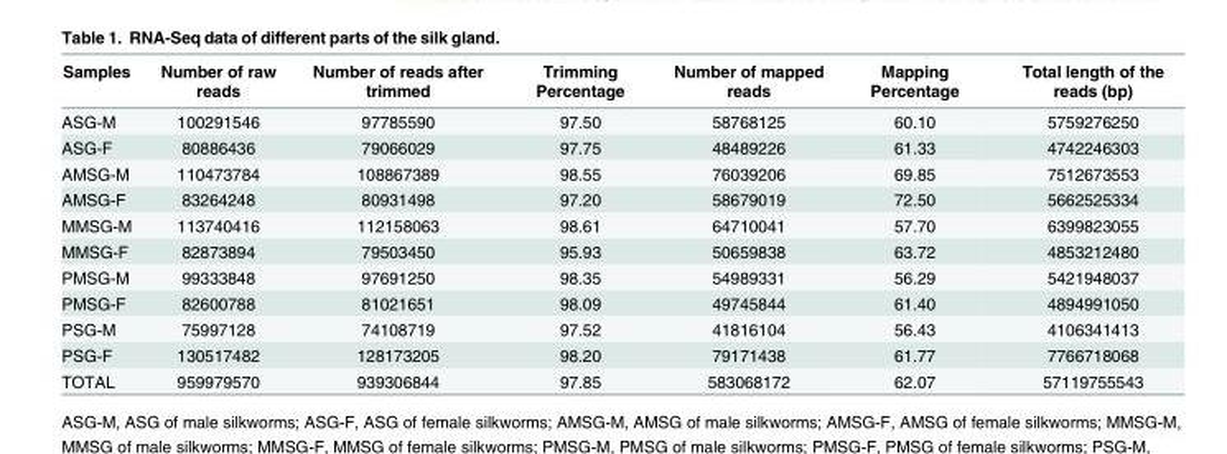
<table><thead><tr><td>Samples</td><td>Number of raw reads</td><td>Number of reads after trimmed</td><td>Trimming Percentage</td><td>Number of mapped reads</td><td>Mapping Percentage</td><td>Total length of the reads (bp)</td></tr></thead><tbody><tr><td>ASG-M</td><td>100291546</td><td>97785590</td><td>97.50</td><td>58768125</td><td>60.10</td><td>5759276250</td></tr><tr><td>ASG-F</td><td>80886436</td><td>79066029</td><td>97.75</td><td>48489226</td><td>61.33</td><td>4742246303</td></tr><tr><td>AMSG-M</td><td>110473784</td><td>108867389</td><td>98.55</td><td>76039206</td><td>69.85</td><td>7512673553</td></tr><tr><td>AMSG-F</td><td>83264248</td><td>80931498</td><td>97.20</td><td>58679019</td><td>72.50</td><td>5662525334</td></tr><tr><td>MMSG-M</td><td>113740416</td><td>112158063</td><td>98.61</td><td>64710041</td><td>57.70</td><td>6399823055</td></tr><tr><td>MMSG-F</td><td>82873894</td><td>79503450</td><td>95.93</td><td>50659838</td><td>63.72</td><td>4853212480</td></tr><tr><td>PMSG-M</td><td>99333848</td><td>97691250</td><td>98.35</td><td>54989331</td><td>56.29</td><td>5421948037</td></tr><tr><td>PMSG-F</td><td>82600788</td><td>81021651</td><td>98.09</td><td>49745844</td><td>61.40</td><td>4894991050</td></tr><tr><td>PSG-M</td><td>75997128</td><td>74108719</td><td>97.52</td><td>41816104</td><td>56.43</td><td>4106341413</td></tr><tr><td>PSG-F</td><td>130517482</td><td>128173205</td><td>98.20</td><td>79171438</td><td>61.77</td><td>7766718068</td></tr><tr><td>TOTAL</td><td>959979570</td><td>939306844</td><td>97.85</td><td>583068172</td><td>62.07</td><td>57119755543</td></tr></tbody></table>